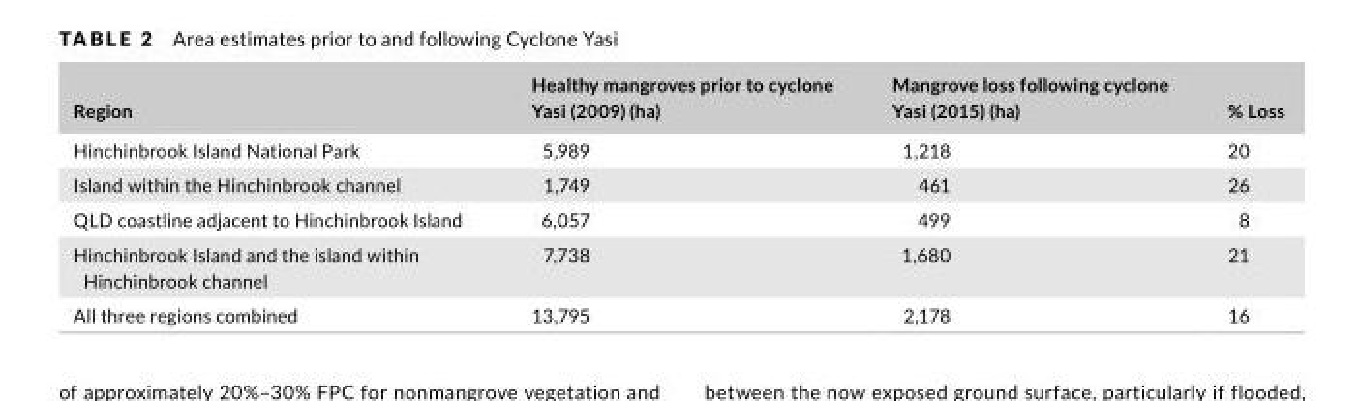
<table><thead><tr><td>Region</td><td>Healthy mangroves prior to cyclone Yasi (2009) (ha)</td><td>Mangrove loss following cyclone Yasi (2015) (ha)</td><td>% Loss</td></tr></thead><tbody><tr><td>Hinchinbrook Island National Park</td><td>5,989</td><td>1,218</td><td>20</td></tr><tr><td>Island within the Hinchinbrook channel</td><td>1,749</td><td>461</td><td>26</td></tr><tr><td>QLD coastline adjacent to Hinchinbrook Island</td><td>6,057</td><td>499</td><td>8</td></tr><tr><td>Hinchinbrook Island and the island within Hinchinbrook channel</td><td>7,738</td><td>1,680</td><td>21</td></tr><tr><td>All three regions combined</td><td>13,795</td><td>2,178</td><td>16</td></tr></tbody></table>